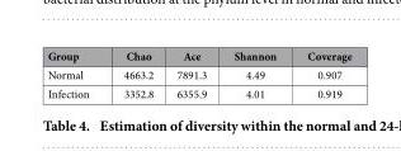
<table><thead><tr><td>Group</td><td>Chao</td><td>Ace</td><td>Shannon</td><td>Coverage</td></tr></thead><tbody><tr><td>Normal</td><td>4663.2</td><td>7891.3</td><td>4.49</td><td>0.907</td></tr><tr><td>Infection</td><td>3352.8</td><td>6355.9</td><td>4.01</td><td>0.919</td></tr></tbody></table>